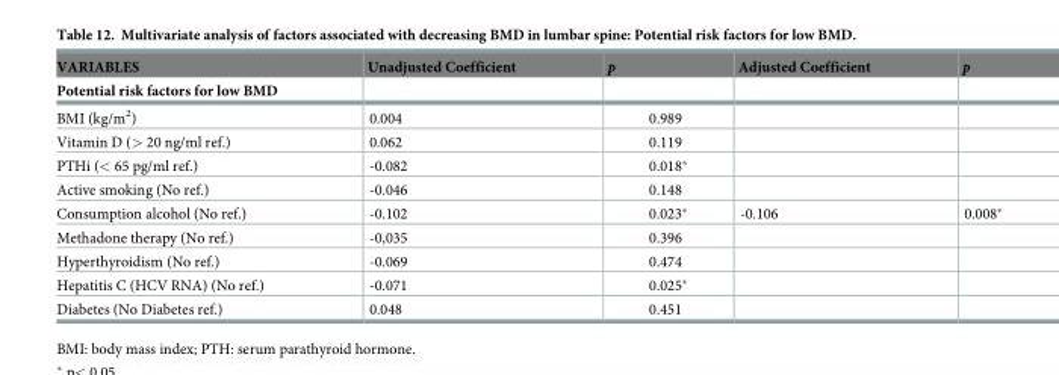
<table><thead><tr><td rowspan="2">VARIABLES Potential risk factors for low BMD</td><td rowspan="2">Unadjusted Coefficient</td><td rowspan="2">p</td><td rowspan="2">Adjusted Coefficient</td><td rowspan="2">p</td></tr><tr></tr></thead><tbody><tr><td>BMI (kg/m<sup>2</sup>)</td><td>0.004</td><td>0.989</td><td></td><td></td></tr><tr><td>Vitamin D (&gt; 20 ng/ml ref.)</td><td>0.062</td><td>0.119</td><td></td><td></td></tr><tr><td>PTHi (&lt; 65 pg/ml ref.)</td><td>-0.082</td><td>0.018*</td><td></td><td></td></tr><tr><td>Active smoking (No ref.)</td><td>-0.046</td><td>0.148</td><td></td><td></td></tr><tr><td>Consumption alcohol (No ref.)</td><td>-0.102</td><td>0.023*</td><td>-0.106</td><td>0.008*</td></tr><tr><td>Methadone therapy (No ref.)</td><td>-0,035</td><td>0.396</td><td></td><td></td></tr><tr><td>Hyperthyroidism (No ref.)</td><td>-0.069</td><td>0.474</td><td></td><td></td></tr><tr><td>Hepatitis C (HCV RNA) (No ref.)</td><td>-0.071</td><td>0.025*</td><td></td><td></td></tr><tr><td>Diabetes (No Diabetes ref.)</td><td>0.048</td><td>0.451</td><td></td><td></td></tr></tbody></table>